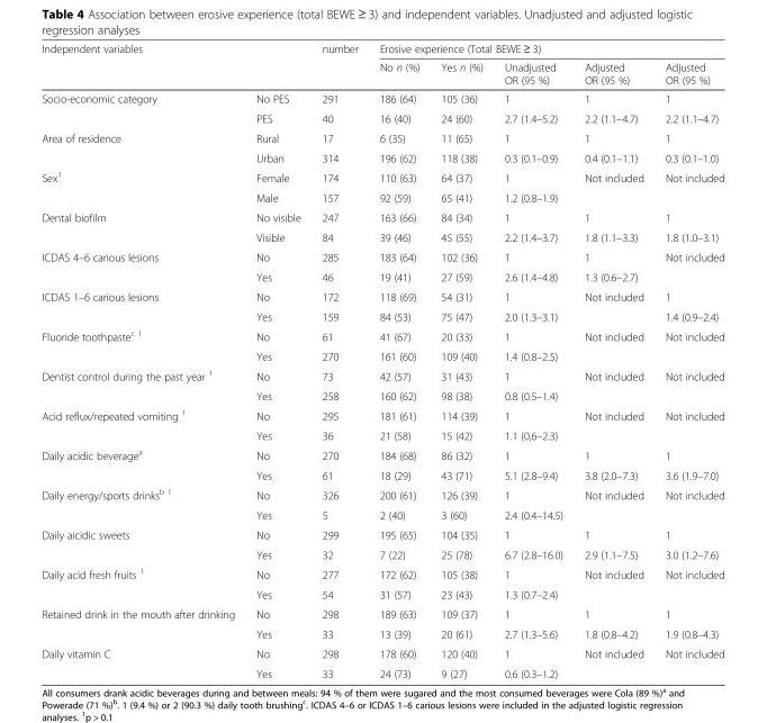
<table><thead><tr><td rowspan="2" colspan="2">Independent variables</td><td rowspan="3">number 291</td><td colspan="5">Erosive experience (Total BEWE ≥ 3)</td></tr><tr><td rowspan="2">No n (%) 186 (64)</td><td rowspan="2">Yes n (%) 105 (36)</td><td rowspan="2">Unadjusted OR (95 %) 1</td><td rowspan="2">Adjusted OR (95 %) 1</td><td rowspan="2">Adjusted OR (95 %) 1</td></tr><tr><td>Socio-economic category</td><td>No PES</td></tr></thead><tbody><tr><td></td><td>PES</td><td>40</td><td>16 (40)</td><td>24 (60)</td><td>2.7 (1.4–5.2)</td><td>2.2 (1.1–4.7)</td><td>2.2 (1.1–4.7)</td></tr><tr><td rowspan="2">Area of residence</td><td>Rural</td><td>17</td><td>6 (35)</td><td>11 (65)</td><td>1</td><td>1</td><td>1</td></tr><tr><td>Urban</td><td>314</td><td>196 (62)</td><td>118 (38)</td><td>0.3 (0.1–0.9)</td><td>0.4 (0.1–1.1)</td><td>0.3 (0.1–1.0)</td></tr><tr><td rowspan="2">Sex<sup>1</sup></td><td>Female</td><td>174</td><td>110 (63)</td><td>64 (37)</td><td>1</td><td>Not included</td><td>Not included</td></tr><tr><td>Male</td><td>157</td><td>92 (59)</td><td>65 (41)</td><td>1.2 (0.8–1.9)</td><td></td><td></td></tr><tr><td rowspan="2">Dental biofilm</td><td>No visible</td><td>247</td><td>163 (66)</td><td>84 (34)</td><td>1</td><td>1</td><td>1</td></tr><tr><td>Visible</td><td>84</td><td>39 (46)</td><td>45 (55)</td><td>2.2 (1.4–3.7)</td><td>1.8 (1.1–3.3)</td><td>1.8 (1.0–3.1)</td></tr><tr><td rowspan="2">ICDAS 4–6 carious lesions</td><td>No</td><td>285</td><td>183 (64)</td><td>102 (36)</td><td>1</td><td>1</td><td>Not included</td></tr><tr><td>Yes</td><td>46</td><td>19 (41)</td><td>27 (59)</td><td>2.6 (1.4–4.8)</td><td>1.3 (0.6–2.7)</td><td></td></tr><tr><td rowspan="2">ICDAS 1–6 carious lesions</td><td>No</td><td>172</td><td>118 (69)</td><td>54 (31)</td><td>1</td><td>Not included</td><td>1</td></tr><tr><td>Yes</td><td>159</td><td>84 (53)</td><td>75 (47)</td><td>2.0 (1.3–3.1)</td><td></td><td>1.4 (0.9–2.4)</td></tr><tr><td rowspan="2">Fluoride toothpaste<sup>c 1</sup></td><td>No</td><td>61</td><td>41 (67)</td><td>20 (33)</td><td>1</td><td>Not included</td><td>Not included</td></tr><tr><td>Yes</td><td>270</td><td>161 (60)</td><td>109 (40)</td><td>1.4 (0.8–2.5)</td><td></td><td></td></tr><tr><td rowspan="2">Dentist control during the past year <sup>1</sup></td><td>No</td><td>73</td><td>42 (57)</td><td>31 (43)</td><td>1</td><td>Not included</td><td>Not included</td></tr><tr><td>Yes</td><td>258</td><td>160 (62)</td><td>98 (38)</td><td>0.8 (0.5–1.4)</td><td></td><td></td></tr><tr><td rowspan="2">Acid reflux/repeated vomiting <sup>1</sup></td><td>No</td><td>295</td><td>181 (61)</td><td>114 (39)</td><td>1</td><td>Not included</td><td>Not included</td></tr><tr><td>Yes</td><td>36</td><td>21 (58)</td><td>15 (42)</td><td>1.1 (0,6–2.3)</td><td></td><td></td></tr><tr><td rowspan="2">Daily acidic beverage<sup>a</sup></td><td>No</td><td>270</td><td>184 (68)</td><td>86 (32)</td><td>1</td><td>1</td><td>1</td></tr><tr><td>Yes</td><td>61</td><td>18 (29)</td><td>43 (71)</td><td>5.1 (2.8–9.4)</td><td>3.8 (2.0–7.3)</td><td>3.6 (1.9–7.0)</td></tr><tr><td rowspan="2">Daily energy/sports drinks<sup>b 1</sup></td><td>No</td><td>326</td><td>200 (61)</td><td>126 (39)</td><td>1</td><td>Not included</td><td>Not included</td></tr><tr><td>Yes</td><td>5</td><td>2 (40)</td><td>3 (60)</td><td>2.4 (0.4–14.5)</td><td></td><td></td></tr><tr><td rowspan="2">Daily aicidic sweets</td><td>No</td><td>299</td><td>195 (65)</td><td>104 (35)</td><td>1</td><td>1</td><td>1</td></tr><tr><td>Yes</td><td>32</td><td>7 (22)</td><td>25 (78)</td><td>6.7 (2.8–16.0)</td><td>2.9 (1.1–7.5)</td><td>3.0 (1.2–7.6)</td></tr><tr><td rowspan="2">Daily acid fresh fruits <sup>1</sup></td><td>No</td><td>277</td><td>172 (62)</td><td>105 (38)</td><td>1</td><td>Not included</td><td>Not included</td></tr><tr><td>Yes</td><td>54</td><td>31 (57)</td><td>23 (43)</td><td>1.3 (0.7–2.4)</td><td></td><td></td></tr><tr><td rowspan="2">Retained drink in the mouth after drinking</td><td>No</td><td>298</td><td>189 (63)</td><td>109 (37)</td><td>1</td><td>1</td><td>1</td></tr><tr><td>Yes</td><td>33</td><td>13 (39)</td><td>20 (61)</td><td>2.7 (1.3–5.6)</td><td>1.8 (0.8–4.2)</td><td>1.9 (0.8–4.3)</td></tr><tr><td rowspan="2">Daily vitamin C</td><td>No</td><td>298</td><td>178 (60)</td><td>120 (40)</td><td>1</td><td>Not included</td><td>Not included</td></tr><tr><td>Yes</td><td>33</td><td>24 (73)</td><td>9 (27)</td><td>0.6 (0.3–1.2)</td><td></td><td></td></tr></tbody></table>